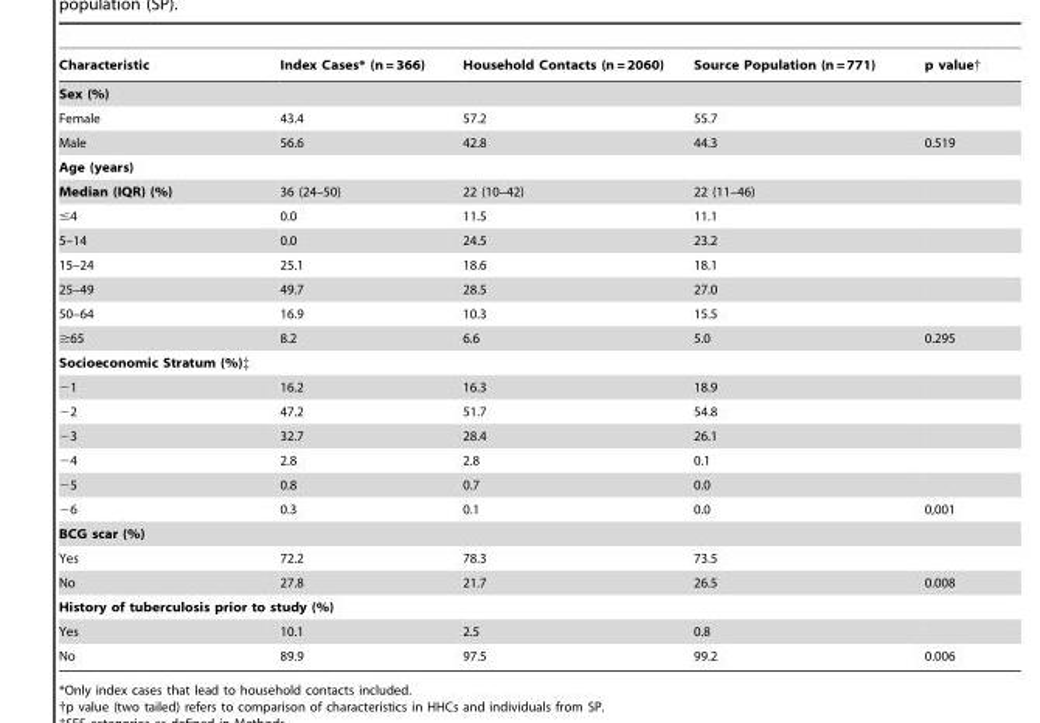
<table><thead><tr><td>Characteristic</td><td>Index Cases* (n = 366)</td><td>Household Contacts (n = 2060)</td><td>Source Population (n = 771)</td><td>p value†</td></tr></thead><tbody><tr><td colspan="5">Sex (%)</td></tr><tr><td>Female</td><td>43.4</td><td>57.2</td><td>55.7</td><td></td></tr><tr><td>Male</td><td>56.6</td><td>42.8</td><td>44.3</td><td>0.519</td></tr><tr><td colspan="5">Age (years)</td></tr><tr><td>Median (IQR) (%)</td><td>36 (24–50)</td><td>22 (10–42)</td><td>22 (11–46)</td><td></td></tr><tr><td>≤4</td><td>0.0</td><td>11.5</td><td>11.1</td><td></td></tr><tr><td>5–14</td><td>0.0</td><td>24.5</td><td>23.2</td><td></td></tr><tr><td>15–24</td><td>25.1</td><td>18.6</td><td>18.1</td><td></td></tr><tr><td>25–49</td><td>49.7</td><td>28.5</td><td>27.0</td><td></td></tr><tr><td>50–64</td><td>16.9</td><td>10.3</td><td>15.5</td><td></td></tr><tr><td>≥65</td><td>8.2</td><td>6.6</td><td>5.0</td><td>0.295</td></tr><tr><td colspan="5">Socioeconomic Stratum (%)‡</td></tr><tr><td>−1</td><td>16.2</td><td>16.3</td><td>18.9</td><td></td></tr><tr><td>−2</td><td>47.2</td><td>51.7</td><td>54.8</td><td></td></tr><tr><td>−3</td><td>32.7</td><td>28.4</td><td>26.1</td><td></td></tr><tr><td>−4</td><td>2.8</td><td>2.8</td><td>0.1</td><td></td></tr><tr><td>−5</td><td>0.8</td><td>0.7</td><td>0.0</td><td></td></tr><tr><td>−6</td><td>0.3</td><td>0.1</td><td>0.0</td><td>0,001</td></tr><tr><td colspan="5">BCG scar (%)</td></tr><tr><td>Yes</td><td>72.2</td><td>78.3</td><td>73.5</td><td></td></tr><tr><td>No</td><td>27.8</td><td>21.7</td><td>26.5</td><td>0.008</td></tr><tr><td colspan="5">History of tuberculosis prior to study (%)</td></tr><tr><td>Yes</td><td>10.1</td><td>2.5</td><td>0.8</td><td></td></tr><tr><td>No</td><td>89.9</td><td>97.5</td><td>99.2</td><td>0.006</td></tr></tbody></table>